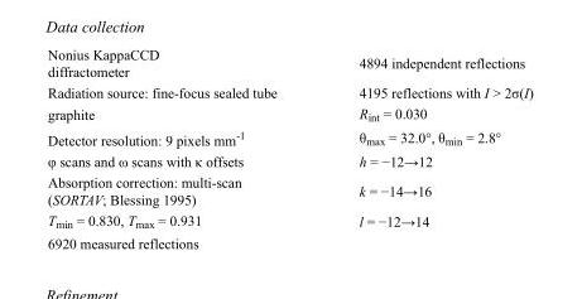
<table><tbody><tr><td>Nonius KappaCCD diffractometer</td><td>4894 independent reflections</td></tr><tr><td>Radiation source: fine-focus sealed tube</td><td>4195 reflections with I &gt; 2σ(I)</td></tr><tr><td>graphite</td><td>R<sub>int</sub> = 0.030</td></tr><tr><td>Detector resolution: 9 pixels mm<sup>-1</sup></td><td>θ<sub>max</sub> = 32.0°, θ<sub>min</sub> = 2.8°</td></tr><tr><td>φ scans and ω scans with κ offsets</td><td>h = −12→12</td></tr><tr><td>Absorption correction: multi-scan (SORTAV; Blessing 1995)</td><td>k = −14→16</td></tr><tr><td>T<sub>min</sub> = 0.830, T<sub>max</sub> = 0.931</td><td>l = −12→14</td></tr><tr><td>6920 measured reflections</td><td></td></tr></tbody></table>